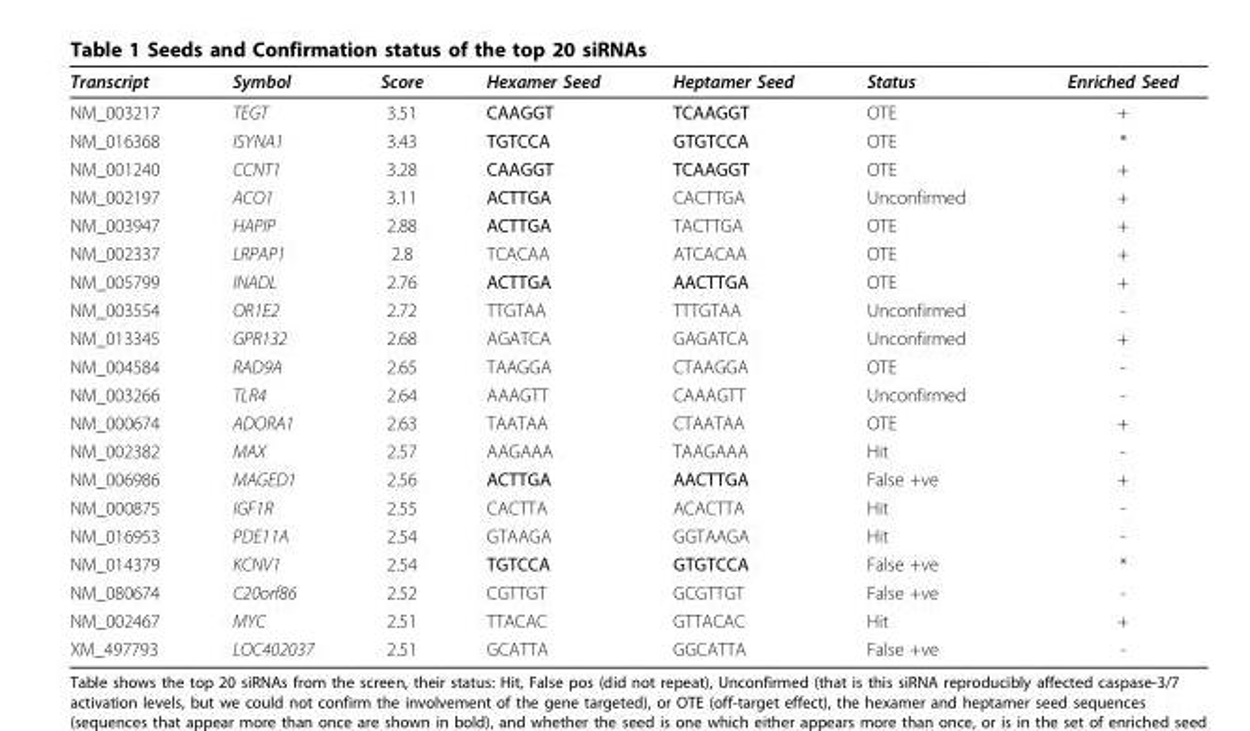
<table><thead><tr><td>Transcript</td><td>Symbol</td><td>Score</td><td>Hexamer Seed</td><td>Heptamer Seed</td><td>Status</td><td>Enriched Seed</td></tr></thead><tbody><tr><td>NM_003217</td><td>TEGT</td><td>3.51</td><td>CAAGGT</td><td>TCAAGGT</td><td>OTE</td><td>+</td></tr><tr><td>NM_016368</td><td>ISYNA1</td><td>3.43</td><td>TGTCCA</td><td>GTGTCCA</td><td>OTE</td><td>*</td></tr><tr><td>NM_001240</td><td>CCNT1</td><td>3.28</td><td>CAAGGT</td><td>TCAAGGT</td><td>OTE</td><td>+</td></tr><tr><td>NM_002197</td><td>ACO1</td><td>3.11</td><td>ACTTGA</td><td>CACTTGA</td><td>Unconfirmed</td><td>+</td></tr><tr><td>NM_003947</td><td>HAPIP</td><td>2.88</td><td>ACTTGA</td><td>TACTTGA</td><td>OTE</td><td>+</td></tr><tr><td>NM_002337</td><td>LRPAP1</td><td>2.8</td><td>TCACAA</td><td>ATCACAA</td><td>OTE</td><td>+</td></tr><tr><td>NM_005799</td><td>INADL</td><td>2.76</td><td>ACTTGA</td><td>AACTTGA</td><td>OTE</td><td>+</td></tr><tr><td>NM_003554</td><td>OR1E2</td><td>2.72</td><td>TTGTAA</td><td>TTTGTAA</td><td>Unconfirmed</td><td>-</td></tr><tr><td>NM_013345</td><td>GPR132</td><td>2.68</td><td>AGATCA</td><td>GAGATCA</td><td>Unconfirmed</td><td>+</td></tr><tr><td>NM_004584</td><td>RAD9A</td><td>2.65</td><td>TAAGGA</td><td>CTAAGGA</td><td>OTE</td><td>-</td></tr><tr><td>NM_003266</td><td>TLR4</td><td>2.64</td><td>AAAGTT</td><td>CAAAGTT</td><td>Unconfirmed</td><td>-</td></tr><tr><td>NM_000674</td><td>ADORA1</td><td>2.63</td><td>TAATAA</td><td>CTAATAA</td><td>OTE</td><td>+</td></tr><tr><td>NM_002382</td><td>MAX</td><td>2.57</td><td>AAGAAA</td><td>TAAGAAA</td><td>Hit</td><td>-</td></tr><tr><td>NM_006986</td><td>MAGED1</td><td>2.56</td><td>ACTTGA</td><td>AACTTGA</td><td>False +ve</td><td>+</td></tr><tr><td>NM_000875</td><td>IGF1R</td><td>2.55</td><td>CACTTA</td><td>ACACTTA</td><td>Hit</td><td>-</td></tr><tr><td>NM_016953</td><td>PDE11A</td><td>2.54</td><td>GTAAGA</td><td>GGTAAGA</td><td>Hit</td><td>-</td></tr><tr><td>NM_014379</td><td>KCNV1</td><td>2.54</td><td>TGTCCA</td><td>GTGTCCA</td><td>False +ve</td><td>*</td></tr><tr><td>NM_080674</td><td>C20orf86</td><td>2.52</td><td>CGTTGT</td><td>GCGTTGT</td><td>False +ve</td><td>-</td></tr><tr><td>NM_002467</td><td>MYC</td><td>2.51</td><td>TTACAC</td><td>GTTACAC</td><td>Hit</td><td>+</td></tr><tr><td>XM_497793</td><td>LOC402037</td><td>2.51</td><td>GCATTA</td><td>GGCATTA</td><td>False +ve</td><td>-</td></tr></tbody></table>